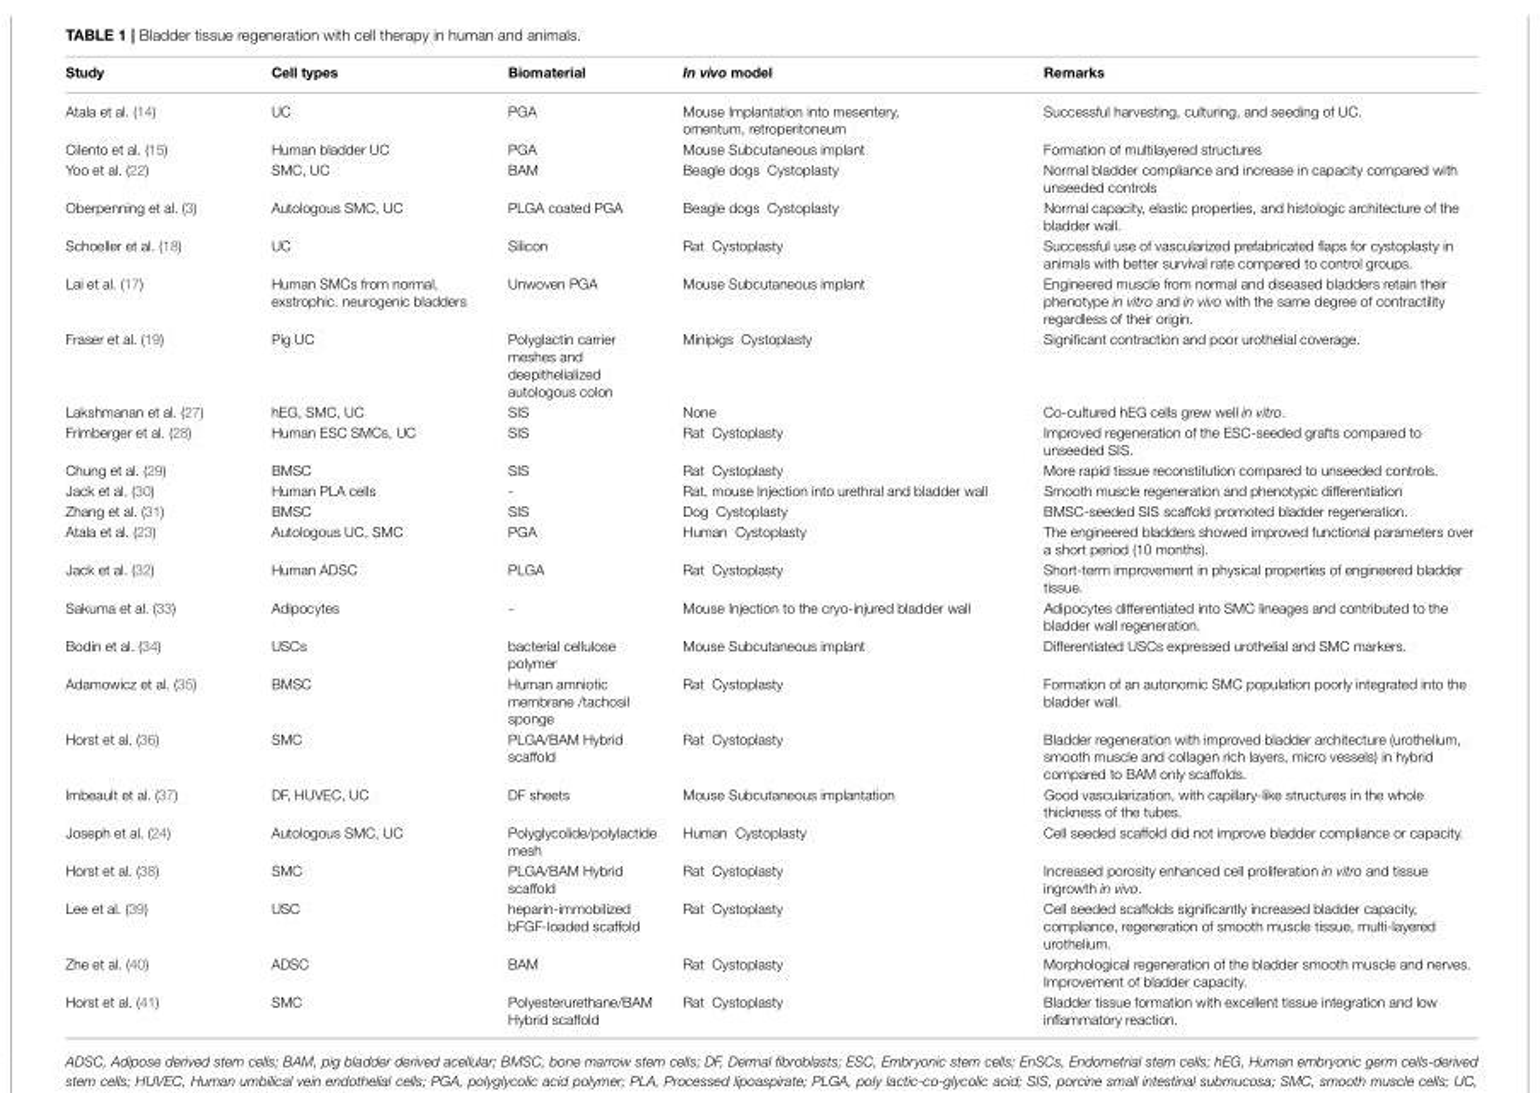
<table><thead><tr><td>Study</td><td>Cell types</td><td>Biomaterial</td><td>In vivo model</td><td>Remarks</td></tr></thead><tbody><tr><td>Atala et al. (14)</td><td>UC</td><td>PGA</td><td>Mouse Implantation into mesentery, omentum, retroperitoneum</td><td>Successful harvesting, culturing, and seeding of UC.</td></tr><tr><td>Cilento et al. (15)</td><td>Human bladder UC</td><td>PGA</td><td>Mouse Subcutaneous implant</td><td>Formation of multilayered structures</td></tr><tr><td>Yoo et al. (22)</td><td>SMC, UC</td><td>BAM</td><td>Beagle dogs Cystoplasty</td><td>Normal bladder compliance and increase in capacity compared with unseeded controls</td></tr><tr><td>Oberpenning et al. (3)</td><td>Autologous SMC, UC</td><td>PLGA coated PGA</td><td>Beagle dogs Cystoplasty</td><td>Normal capacity, elastic properties, and histologic architecture of the bladder wall.</td></tr><tr><td>Schoeller et al. (18)</td><td>UC</td><td>Silicon</td><td>Rat Cystoplasty</td><td>Successful use of vascularized prefabricated flaps for cystoplasty in animals with better survival rate compared to control groups.</td></tr><tr><td>Lai et al. (17)</td><td>Human SMCs from normal, exstrophic. neurogenic bladders</td><td>Unwoven PGA</td><td>Mouse Subcutaneous implant</td><td>Engineered muscle from normal and diseased bladders retain their phenotype in vitro and in vivo with the same degree of contractility regardless of their origin.</td></tr><tr><td>Fraser et al. (19)</td><td>Pig UC</td><td>Polyglactin carrier meshes and deepithelialized autologous colon</td><td>Minipigs Cystoplasty</td><td>Significant contraction and poor urothelial coverage.</td></tr><tr><td>Lakshmanan et al. (27)</td><td>hEG, SMC, UC</td><td>SIS</td><td>None</td><td>Co-cultured hEG cells grew well in vitro.</td></tr><tr><td>Frimberger et al. (28)</td><td>Human ESC SMCs, UC</td><td>SIS</td><td>Rat Cystoplasty</td><td>Improved regeneration of the ESC-seeded grafts compared to unseeded SIS.</td></tr><tr><td>Chung et al. (29)</td><td>BMSC</td><td>SIS</td><td>Rat Cystoplasty</td><td>More rapid tissue reconstitution compared to unseeded controls.</td></tr><tr><td>Jack et al. (30)</td><td>Human PLA cells</td><td>-</td><td>Rat, mouse Injection into urethral and bladder wall</td><td>Smooth muscle regeneration and phenotypic differentiation</td></tr><tr><td>Zhang et al. (31)</td><td>BMSC</td><td>SIS</td><td>Dog Cystoplasty</td><td>BMSC-seeded SIS scaffold promoted bladder regeneration.</td></tr><tr><td>Atala et al. (23)</td><td>Autologous UC, SMC</td><td>PGA</td><td>Human Cystoplasty</td><td>The engineered bladders showed improved functional parameters over a short period (10 months).</td></tr><tr><td>Jack et al. (32)</td><td>Human ADSC</td><td>PLGA</td><td>Rat Cystoplasty</td><td>Short-term improvement in physical properties of engineered bladder tissue.</td></tr><tr><td>Sakuma et al. (33)</td><td>Adipocytes</td><td>-</td><td>Mouse Injection to the cryo-injured bladder wall</td><td>Adipocytes differentiated into SMC lineages and contributed to the bladder wall regeneration.</td></tr><tr><td>Bodin et al. (34)</td><td>USCs</td><td>bacterial cellulose polymer</td><td>Mouse Subcutaneous implant</td><td>Differentiated USCs expressed urothelial and SMC markers.</td></tr><tr><td>Adamowicz et al. (35)</td><td>BMSC</td><td>Human amniotic membrane /tachosil sponge</td><td>Rat Cystoplasty</td><td>Formation of an autonomic SMC population poorly integrated into the bladder wall.</td></tr><tr><td>Horst et al. (36)</td><td>SMC</td><td>PLGA/BAM Hybrid scaffold</td><td>Rat Cystoplasty</td><td>Bladder regeneration with improved bladder architecture (urothelium, smooth muscle and collagen rich layers, micro vessels) in hybrid compared to BAM only scaffolds.</td></tr><tr><td>Imbeault et al. (37)</td><td>DF, HUVEC, UC</td><td>DF sheets</td><td>Mouse Subcutaneous implantation</td><td>Good vascularization, with capillary-like structures in the whole thickness of the tubes.</td></tr><tr><td>Joseph et al. (24)</td><td>Autologous SMC, UC</td><td>Polyglycolide/polylactide mesh</td><td>Human Cystoplasty</td><td>Cell seeded scaffold did not improve bladder compliance or capacity.</td></tr><tr><td>Horst et al. (38)</td><td>SMC</td><td>PLGA/BAM Hybrid scaffold</td><td>Rat Cystoplasty</td><td>Increased porosity enhanced cell proliferation in vitro and tissue ingrowth in vivo.</td></tr><tr><td>Lee et al. (39)</td><td>USC</td><td>heparin-immobilized bFGF-loaded scaffold</td><td>Rat Cystoplasty</td><td>Cell seeded scaffolds significantly increased bladder capacity, compliance, regeneration of smooth muscle tissue, multi-layered urothelium.</td></tr><tr><td>Zhe et al. (40)</td><td>ADSC</td><td>BAM</td><td>Rat Cystoplasty</td><td>Morphological regeneration of the bladder smooth muscle and nerves. Improvement of bladder capacity.</td></tr><tr><td>Horst et al. (41)</td><td>SMC</td><td>Polyesterurethane/BAM Hybrid scaffold</td><td>Rat Cystoplasty</td><td>Bladder tissue formation with excellent tissue integration and low inflammatory reaction.</td></tr></tbody></table>